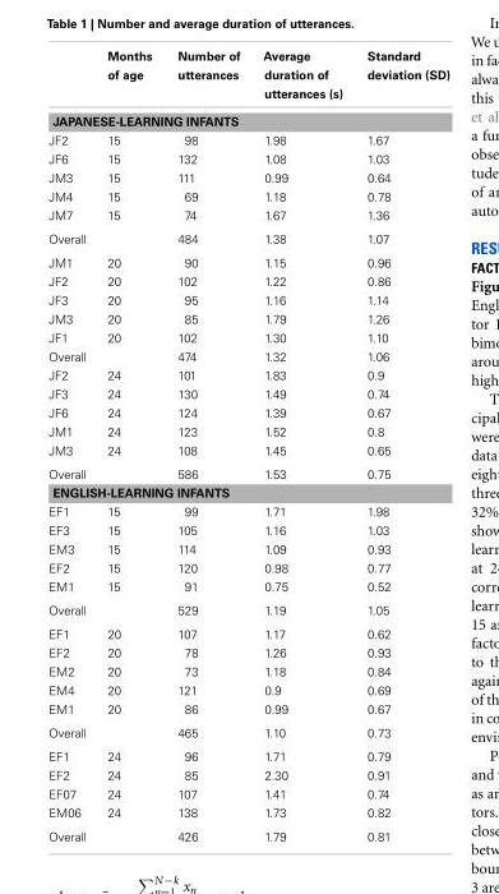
<table><thead><tr><td></td><td>Months of age</td><td>Number of utterances</td><td>Average duration of utterances (s)</td><td>Standard deviation (SD)</td></tr></thead><tbody><tr><td colspan="5">JAPANESE-LEARNING INFANTS</td></tr><tr><td>JF2</td><td>15</td><td>98</td><td>1.98</td><td>1.67</td></tr><tr><td>JF6</td><td>15</td><td>132</td><td>1.08</td><td>1.03</td></tr><tr><td>JM3</td><td>15</td><td>111</td><td>0.99</td><td>0.64</td></tr><tr><td>JM4</td><td>15</td><td>69</td><td>1.18</td><td>0.78</td></tr><tr><td>JM7</td><td>15</td><td>74</td><td>1.67</td><td>1.36</td></tr><tr><td>Overall</td><td></td><td>484</td><td>1.38</td><td>1.07</td></tr><tr><td>JM1</td><td>20</td><td>90</td><td>1.15</td><td>0.96</td></tr><tr><td>JF2</td><td>20</td><td>102</td><td>1.22</td><td>0.86</td></tr><tr><td>JF3</td><td>20</td><td>95</td><td>1.16</td><td>1.14</td></tr><tr><td>JM3</td><td>20</td><td>85</td><td>1.79</td><td>1.26</td></tr><tr><td>JF1</td><td>20</td><td>102</td><td>1.30</td><td>1.10</td></tr><tr><td>Overall</td><td></td><td>474</td><td>1.32</td><td>1.06</td></tr><tr><td>JF2</td><td>24</td><td>101</td><td>1.83</td><td>0.9</td></tr><tr><td>JF3</td><td>24</td><td>130</td><td>1.49</td><td>0.74</td></tr><tr><td>JF6</td><td>24</td><td>124</td><td>1.39</td><td>0.67</td></tr><tr><td>JM1</td><td>24</td><td>123</td><td>1.52</td><td>0.8</td></tr><tr><td>JM3</td><td>24</td><td>108</td><td>1.45</td><td>0.65</td></tr><tr><td>Overall</td><td></td><td>586</td><td>1.53</td><td>0.75</td></tr><tr><td colspan="5">ENGLISH-LEARNING INFANTS</td></tr><tr><td>EF1</td><td>15</td><td>99</td><td>1.71</td><td>1.98</td></tr><tr><td>EF3</td><td>15</td><td>105</td><td>1.16</td><td>1.03</td></tr><tr><td>EM3</td><td>15</td><td>114</td><td>1.09</td><td>0.93</td></tr><tr><td>EF2</td><td>15</td><td>120</td><td>0.98</td><td>0.77</td></tr><tr><td>EM1</td><td>15</td><td>91</td><td>0.75</td><td>0.52</td></tr><tr><td>Overall</td><td></td><td>529</td><td>1.19</td><td>1.05</td></tr><tr><td>EF1</td><td>20</td><td>107</td><td>1.17</td><td>0.62</td></tr><tr><td>EF2</td><td>20</td><td>78</td><td>1.26</td><td>0.93</td></tr><tr><td>EM2</td><td>20</td><td>73</td><td>1.18</td><td>0.84</td></tr><tr><td>EM4</td><td>20</td><td>121</td><td>0.9</td><td>0.69</td></tr><tr><td>EM1</td><td>20</td><td>86</td><td>0.99</td><td>0.67</td></tr><tr><td>Overall</td><td></td><td>465</td><td>1.10</td><td>0.73</td></tr><tr><td>EF1</td><td>24</td><td>96</td><td>1.71</td><td>0.79</td></tr><tr><td>EF2</td><td>24</td><td>85</td><td>2.30</td><td>0.91</td></tr><tr><td>EF07</td><td>24</td><td>107</td><td>1.41</td><td>0.74</td></tr><tr><td>EM06</td><td>24</td><td>138</td><td>1.73</td><td>0.82</td></tr><tr><td>Overall</td><td></td><td>426</td><td>1.79</td><td>0.81</td></tr></tbody></table>